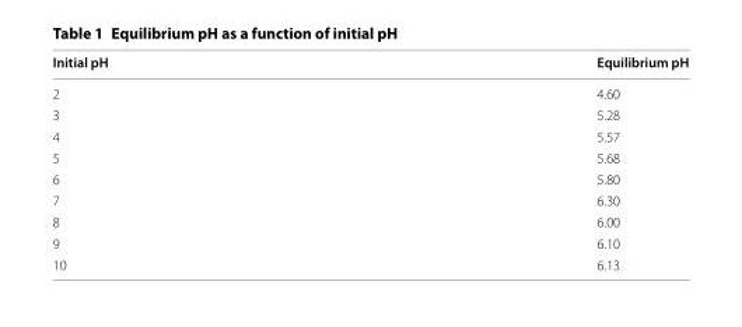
<table><thead><tr><td>Initial pH</td><td>Equilibrium pH</td></tr></thead><tbody><tr><td>2</td><td>4.60</td></tr><tr><td>3</td><td>5.28</td></tr><tr><td>4</td><td>5.57</td></tr><tr><td>5</td><td>5.68</td></tr><tr><td>6</td><td>5.80</td></tr><tr><td>7</td><td>6.30</td></tr><tr><td>8</td><td>6.00</td></tr><tr><td>9</td><td>6.10</td></tr><tr><td>10</td><td>6.13</td></tr></tbody></table>